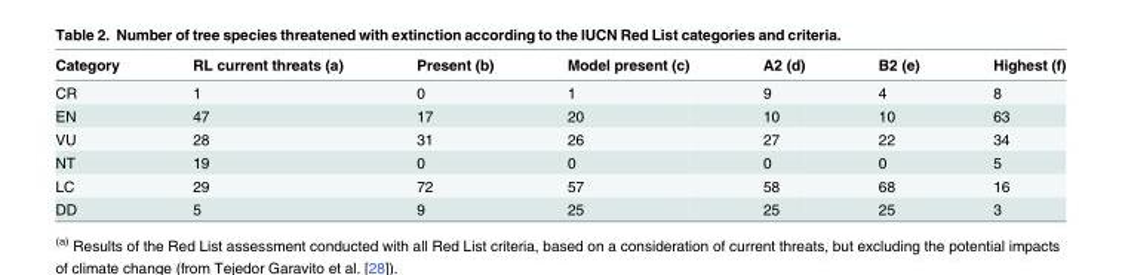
<table><thead><tr><td>Category</td><td>RL current threats (a)</td><td>Present (b)</td><td>Model present (c)</td><td>A2 (d)</td><td>B2 (e)</td><td>Highest (f)</td></tr></thead><tbody><tr><td>CR</td><td>1</td><td>0</td><td>1</td><td>9</td><td>4</td><td>8</td></tr><tr><td>EN</td><td>47</td><td>17</td><td>20</td><td>10</td><td>10</td><td>63</td></tr><tr><td>VU</td><td>28</td><td>31</td><td>26</td><td>27</td><td>22</td><td>34</td></tr><tr><td>NT</td><td>19</td><td>0</td><td>0</td><td>0</td><td>0</td><td>5</td></tr><tr><td>LC</td><td>29</td><td>72</td><td>57</td><td>58</td><td>68</td><td>16</td></tr><tr><td>DD</td><td>5</td><td>9</td><td>25</td><td>25</td><td>25</td><td>3</td></tr></tbody></table>